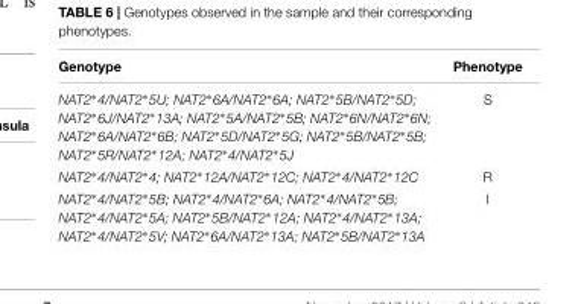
<table><thead><tr><td>Genotype</td><td>Phenotype</td></tr></thead><tbody><tr><td>NAT2∗4/NAT2∗5U; NAT2∗6A/NAT2∗6A; NAT2∗5B/NAT2∗5D; NAT2∗6J/NAT2∗13A; NAT2∗5A/NAT2∗5B; NAT2∗6N/NAT2∗6N; NAT2∗6A/NAT2∗6B; NAT2∗5D/NAT2∗5G; NAT2∗5B/NAT2∗5B; NAT2∗5R/NAT2∗12A; NAT2∗4/NAT2∗5J</td><td>S</td></tr><tr><td>NAT2∗4/NAT2∗4; NAT2∗12A/NAT2∗12C; NAT2∗4/NAT2∗12C</td><td>R</td></tr><tr><td>NAT2∗4/NAT2∗5B; NAT2∗4/NAT2∗6A; NAT2∗4/NAT2∗5B; NAT2∗4/NAT2∗5A; NAT2∗5B/NAT2∗12A; NAT2∗4/NAT2∗13A; NAT2∗4/NAT2∗5V; NAT2∗6A/NAT2∗13A; NAT2∗5B/NAT2∗13A</td><td>I</td></tr></tbody></table>